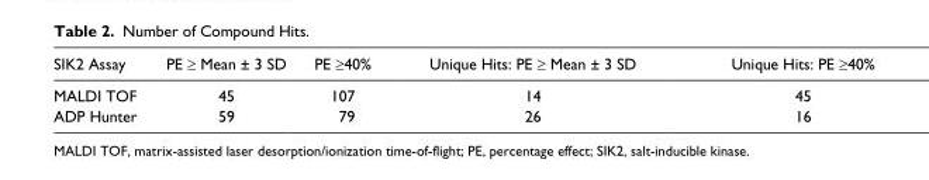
<table><thead><tr><td>SIK2 Assay</td><td>PE ≥ Mean ± 3 SD</td><td>PE ≥40%</td><td>Unique Hits: PE ≥ Mean ± 3 SD</td><td>Unique Hits: PE ≥40%</td></tr></thead><tbody><tr><td>MALDI TOF</td><td>45</td><td>107</td><td>14</td><td>45</td></tr><tr><td>ADP Hunter</td><td>59</td><td>79</td><td>26</td><td>16</td></tr></tbody></table>